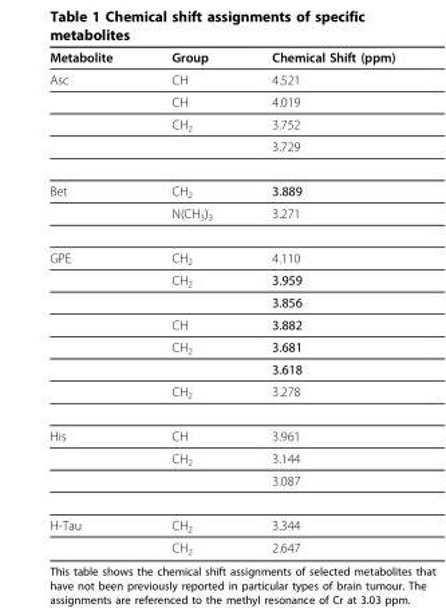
<table><thead><tr><td>Metabolite</td><td>Group</td><td>Chemical Shift (ppm)</td></tr></thead><tbody><tr><td rowspan="4">Asc</td><td>CH</td><td>4.521</td></tr><tr><td>CH</td><td>4.019</td></tr><tr><td>CH2</td><td>3.752</td></tr><tr><td></td><td>3.729</td></tr><tr><td rowspan="2">Bet</td><td>CH2</td><td>3.889</td></tr><tr><td>N(CH3)3</td><td>3.271</td></tr><tr><td rowspan="7">GPE</td><td>CH2</td><td>4.110</td></tr><tr><td>CH2</td><td>3.959</td></tr><tr><td></td><td>3.856</td></tr><tr><td>CH</td><td>3.882</td></tr><tr><td>CH2</td><td>3.681</td></tr><tr><td></td><td>3.618</td></tr><tr><td>CH2</td><td>3.278</td></tr><tr><td rowspan="3">His</td><td>CH</td><td>3.961</td></tr><tr><td>CH2</td><td>3.144</td></tr><tr><td></td><td>3.087</td></tr><tr><td rowspan="2">H-Tau</td><td>CH2</td><td>3.344</td></tr><tr><td>CH2</td><td>2.647</td></tr></tbody></table>